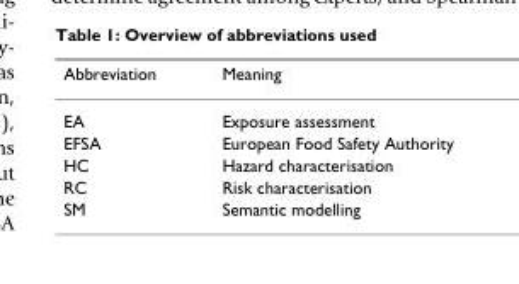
<table><thead><tr><td>Abbreviation</td><td>Meaning</td></tr></thead><tbody><tr><td>EA</td><td>Exposure assessment</td></tr><tr><td>EFSA</td><td>European Food Safety Authority</td></tr><tr><td>HC</td><td>Hazard characterisation</td></tr><tr><td>RC</td><td>Risk characterisation</td></tr><tr><td>SM</td><td>Semantic modelling</td></tr></tbody></table>